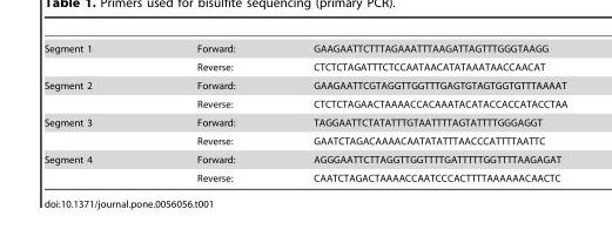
<table><tbody><tr><td rowspan="2">Segment 1</td><td>Forward:</td><td>GAAGAATTCTTTAGAAATTTAAGATTAGTTTGGGTAAGG</td></tr><tr><td>Reverse:</td><td>CTCTCTAGATTTCTCCAATAACATATAAATAACCAACAT</td></tr><tr><td rowspan="2">Segment 2</td><td>Forward:</td><td>GAAGAATTCGTAGGTTGGTTTGAGTGTAGTGGTGTTTAAAAT</td></tr><tr><td>Reverse:</td><td>CTCTCTAGAACTAAAACCACAAATACATACCACCATACCTAA</td></tr><tr><td rowspan="2">Segment 3</td><td>Forward:</td><td>TAGGAATTCTATATTTGTAATTTTAGTATTTTGGGAGGT</td></tr><tr><td>Reverse:</td><td>GAATCTAGACAAAACAATATATTTAACCCATTTTAATTC</td></tr><tr><td rowspan="2">Segment 4</td><td>Forward:</td><td>AGGGAATTCTTAGGTTGGTTTTGATTTTTGGTTTTAAGAGAT</td></tr><tr><td>Reverse:</td><td>CAATCTAGACTAAAACCAATCCCACTTTTAAAAAACAACTC</td></tr></tbody></table>